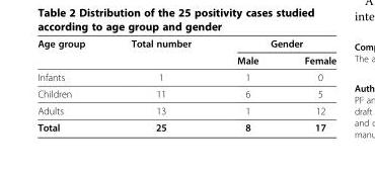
<table><thead><tr><td rowspan="2">Age group</td><td rowspan="2">Total number</td><td colspan="2">Gender</td></tr><tr><td>Male</td><td>Female</td></tr></thead><tbody><tr><td>Infants</td><td>1</td><td>1</td><td>0</td></tr><tr><td>Children</td><td>11</td><td>6</td><td>5</td></tr><tr><td>Adults</td><td>13</td><td>1</td><td>12</td></tr><tr><td>Total</td><td>25</td><td>8</td><td>17</td></tr></tbody></table>